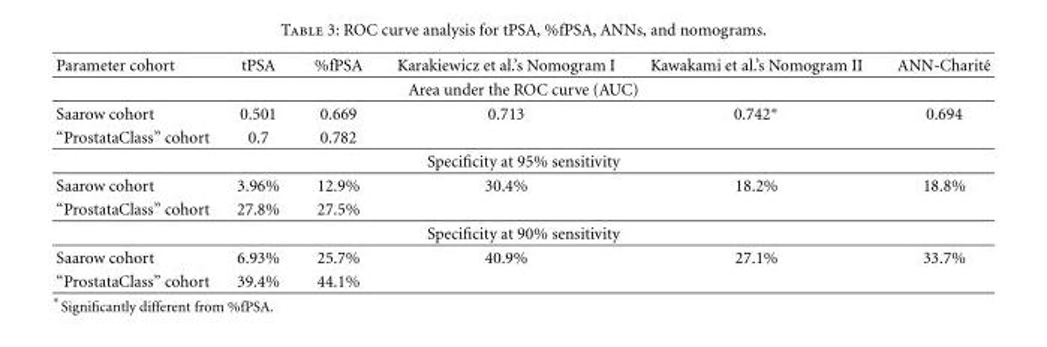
<table><thead><tr><td>Parameter cohort</td><td>tPSA</td><td>%fPSA</td><td>Karakiewicz et al.’s Nomogram I</td><td>Kawakami et al.’s Nomogram II</td><td>ANN-Charit´e</td></tr></thead><tbody><tr><td colspan="6">Area under the ROC curve (AUC)</td></tr><tr><td>Saarow cohort</td><td>0.501</td><td>0.669</td><td>0.713</td><td>0.742∗</td><td>0.694</td></tr><tr><td>“ProstataClass” cohort</td><td>0.7</td><td>0.782</td><td></td><td></td><td></td></tr><tr><td colspan="6">Specificity at 95% sensitivity</td></tr><tr><td>Saarow cohort</td><td>3.96%</td><td>12.9%</td><td>30.4%</td><td>18.2%</td><td>18.8%</td></tr><tr><td>“ProstataClass” cohort</td><td>27.8%</td><td>27.5%</td><td></td><td></td><td></td></tr><tr><td colspan="6">Specificity at 90% sensitivity</td></tr><tr><td>Saarow cohort</td><td>6.93%</td><td>25.7%</td><td>40.9%</td><td>27.1%</td><td>33.7%</td></tr><tr><td>“ProstataClass” cohort</td><td>39.4%</td><td>44.1%</td><td></td><td></td><td></td></tr></tbody></table>